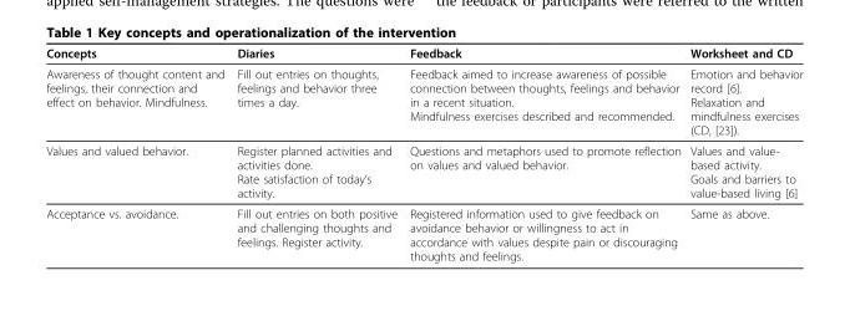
<table><thead><tr><td>Concepts</td><td>Diaries</td><td>Feedback</td><td>Worksheet and CD</td></tr></thead><tbody><tr><td>Awareness of thought content and feelings, their connection and effect on behavior. Mindfulness.</td><td>Fill out entries on thoughts, feelings and behavior three times a day.</td><td>Feedback aimed to increase awareness of possible connection between thoughts, feelings and behavior in a recent situation. Mindfulness exercises described and recommended.</td><td>Emotion and behavior record [6]. Relaxation and mindfulness exercises (CD, [23]).</td></tr><tr><td>Values and valued behavior.</td><td>Register planned activities and activities done. Rate satisfaction of today’s activity.</td><td>Questions and metaphors used to promote reflection on values and valued behavior.</td><td>Values and value- based activity. Goals and barriers to value-based living [6]</td></tr><tr><td>Acceptance vs. avoidance.</td><td>Fill out entries on both positive and challenging thoughts and feelings. Register activity.</td><td>Registered information used to give feedback on avoidance behavior or willingness to act in accordance with values despite pain or discouraging thoughts and feelings.</td><td>Same as above.</td></tr></tbody></table>